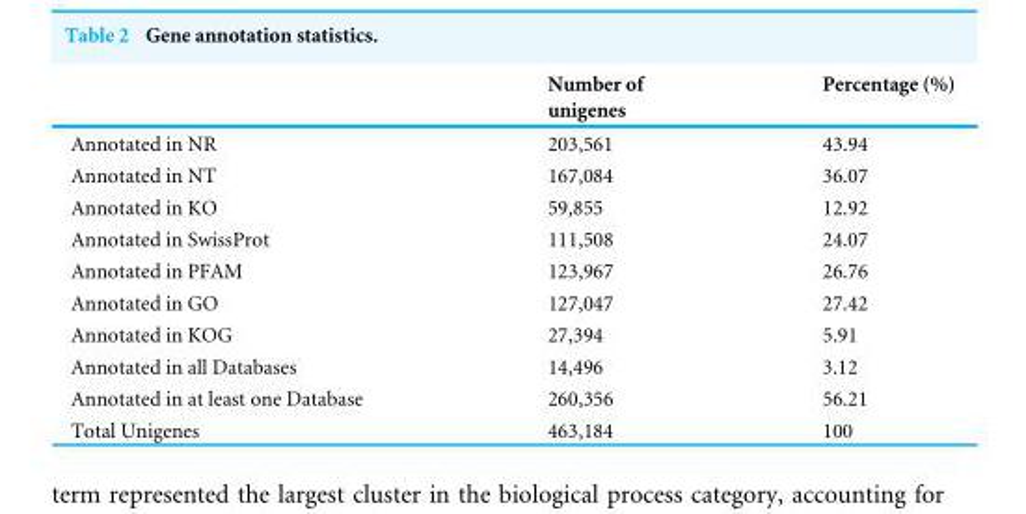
<table><thead><tr><td></td><td>Number of unigenes</td><td>Percentage (%)</td></tr></thead><tbody><tr><td>Annotated in NR</td><td>203,561</td><td>43.94</td></tr><tr><td>Annotated in NT</td><td>167,084</td><td>36.07</td></tr><tr><td>Annotated in KO</td><td>59,855</td><td>12.92</td></tr><tr><td>Annotated in SwissProt</td><td>111,508</td><td>24.07</td></tr><tr><td>Annotated in PFAM</td><td>123,967</td><td>26.76</td></tr><tr><td>Annotated in GO</td><td>127,047</td><td>27.42</td></tr><tr><td>Annotated in KOG</td><td>27,394</td><td>5.91</td></tr><tr><td>Annotated in all Databases</td><td>14,496</td><td>3.12</td></tr><tr><td>Annotated in at least one Database</td><td>260,356</td><td>56.21</td></tr><tr><td>Total Unigenes</td><td>463,184</td><td>100</td></tr></tbody></table>